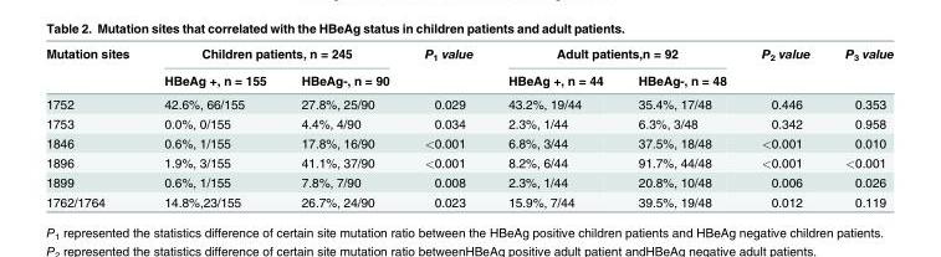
<table><thead><tr><td rowspan="2">Mutation sites</td><td colspan="2">Children patients, n = 245</td><td rowspan="2">P<sub>1</sub> value</td><td colspan="2">Adult patients,n = 92</td><td rowspan="2">P<sub>2</sub> value</td><td rowspan="2">P<sub>3</sub> value</td></tr><tr><td>HBeAg +, n = 155</td><td>HBeAg-, n = 90</td><td>HBeAg +, n = 44</td><td>HBeAg-, n = 48</td></tr></thead><tbody><tr><td>1752</td><td>42.6%, 66/155</td><td>27.8%, 25/90</td><td>0.029</td><td>43.2%, 19/44</td><td>35.4%, 17/48</td><td>0.446</td><td>0.353</td></tr><tr><td>1753</td><td>0.0%, 0/155</td><td>4.4%, 4/90</td><td>0.034</td><td>2.3%, 1/44</td><td>6.3%, 3/48</td><td>0.342</td><td>0.958</td></tr><tr><td>1846</td><td>0.6%, 1/155</td><td>17.8%, 16/90</td><td>&lt;0.001</td><td>6.8%, 3/44</td><td>37.5%, 18/48</td><td>&lt;0.001</td><td>0.010</td></tr><tr><td>1896</td><td>1.9%, 3/155</td><td>41.1%, 37/90</td><td>&lt;0.001</td><td>8.2%, 6/44</td><td>91.7%, 44/48</td><td>&lt;0.001</td><td>&lt;0.001</td></tr><tr><td>1899</td><td>0.6%, 1/155</td><td>7.8%, 7/90</td><td>0.008</td><td>2.3%, 1/44</td><td>20.8%, 10/48</td><td>0.006</td><td>0.026</td></tr><tr><td>1762/1764</td><td>14.8%,23/155</td><td>26.7%, 24/90</td><td>0.023</td><td>15.9%, 7/44</td><td>39.5%, 19/48</td><td>0.012</td><td>0.119</td></tr></tbody></table>